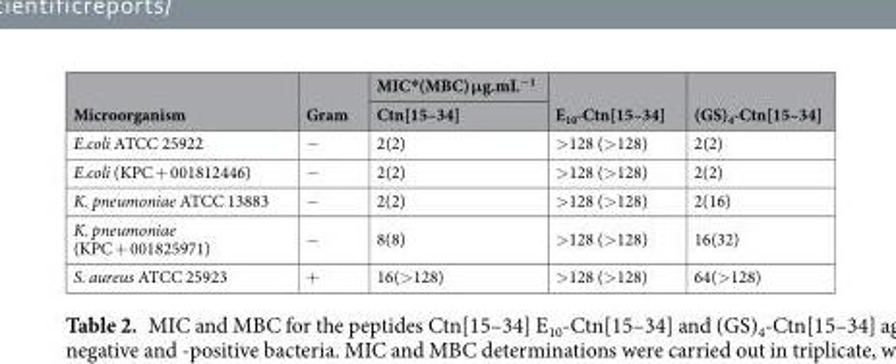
<table><thead><tr><td rowspan="2">Microorganism</td><td rowspan="2">Gram</td><td rowspan="2">MIC*(MBC) μg.mL<sup>−1</sup> Ctn[15–34]</td><td rowspan="2">E<sub>10</sub>-Ctn[15–34]</td><td rowspan="2">(GS)<sub>4</sub>-Ctn[15–34]</td></tr><tr></tr></thead><tbody><tr><td>E.coli ATCC 25922</td><td>−</td><td>2(2)</td><td>&gt;128 (&gt;128)</td><td>2(2)</td></tr><tr><td>E.coli (KPC + 001812446)</td><td>−</td><td>2(2)</td><td>&gt;128 (&gt;128)</td><td>2(2)</td></tr><tr><td>K. pneumoniae ATCC 13883</td><td>−</td><td>2(2)</td><td>&gt;128 (&gt;128)</td><td>2(16)</td></tr><tr><td>K. pneumoniae (KPC + 001825971)</td><td>−</td><td>8(8)</td><td>&gt;128 (&gt;128)</td><td>16(32)</td></tr><tr><td>S. aureus ATCC 25923</td><td>+</td><td>16(&gt;128)</td><td>&gt;128 (&gt;128)</td><td>64(&gt;128)</td></tr></tbody></table>